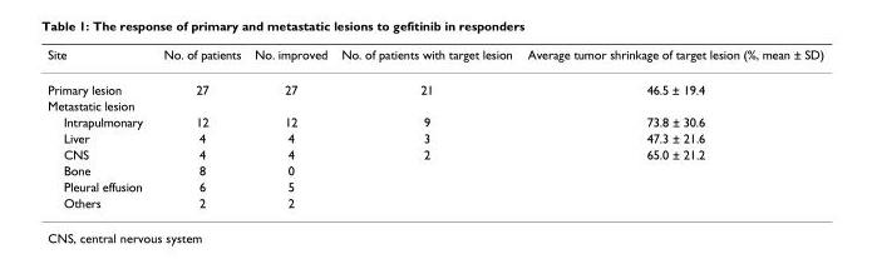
<table><thead><tr><td>Site</td><td>No. of patients</td><td>No. improved</td><td>No. of patients with target lesion</td><td>Average tumor shrinkage of target lesion (%, mean ± SD)</td></tr></thead><tbody><tr><td>Primary lesion</td><td>27</td><td>27</td><td>21</td><td>46.5 ± 19.4</td></tr><tr><td colspan="5">Metastatic lesion</td></tr><tr><td>Intrapulmonary</td><td>12</td><td>12</td><td>9</td><td>73.8 ± 30.6</td></tr><tr><td>Liver</td><td>4</td><td>4</td><td>3</td><td>47.3 ± 21.6</td></tr><tr><td>CNS</td><td>4</td><td>4</td><td>2</td><td>65.0 ± 21.2</td></tr><tr><td>Bone</td><td>8</td><td>0</td><td></td><td></td></tr><tr><td>Pleural effusion</td><td>6</td><td>5</td><td></td><td></td></tr><tr><td>Others</td><td>2</td><td>2</td><td></td><td></td></tr></tbody></table>